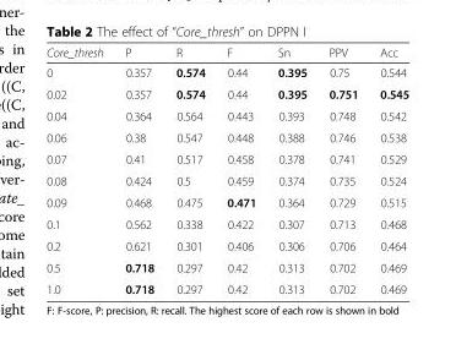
<table><thead><tr><td>Core_thresh</td><td>P</td><td>R</td><td>F</td><td>Sn</td><td>PPV</td><td>Acc</td></tr></thead><tbody><tr><td>0</td><td>0.357</td><td>0.574</td><td>0.44</td><td>0.395</td><td>0.75</td><td>0.544</td></tr><tr><td>0.02</td><td>0.357</td><td>0.574</td><td>0.44</td><td>0.395</td><td>0.751</td><td>0.545</td></tr><tr><td>0.04</td><td>0.364</td><td>0.564</td><td>0.443</td><td>0.393</td><td>0.748</td><td>0.542</td></tr><tr><td>0.06</td><td>0.38</td><td>0.547</td><td>0.448</td><td>0.388</td><td>0.746</td><td>0.538</td></tr><tr><td>0.07</td><td>0.41</td><td>0.517</td><td>0.458</td><td>0.378</td><td>0.741</td><td>0.529</td></tr><tr><td>0.08</td><td>0.424</td><td>0.5</td><td>0.459</td><td>0.374</td><td>0.735</td><td>0.524</td></tr><tr><td>0.09</td><td>0.468</td><td>0.475</td><td>0.471</td><td>0.364</td><td>0.729</td><td>0.515</td></tr><tr><td>0.1</td><td>0.562</td><td>0.338</td><td>0.422</td><td>0.307</td><td>0.713</td><td>0.468</td></tr><tr><td>0.2</td><td>0.621</td><td>0.301</td><td>0.406</td><td>0.306</td><td>0.706</td><td>0.464</td></tr><tr><td>0.5</td><td>0.718</td><td>0.297</td><td>0.42</td><td>0.313</td><td>0.702</td><td>0.469</td></tr><tr><td>1.0</td><td>0.718</td><td>0.297</td><td>0.42</td><td>0.313</td><td>0.702</td><td>0.469</td></tr></tbody></table>